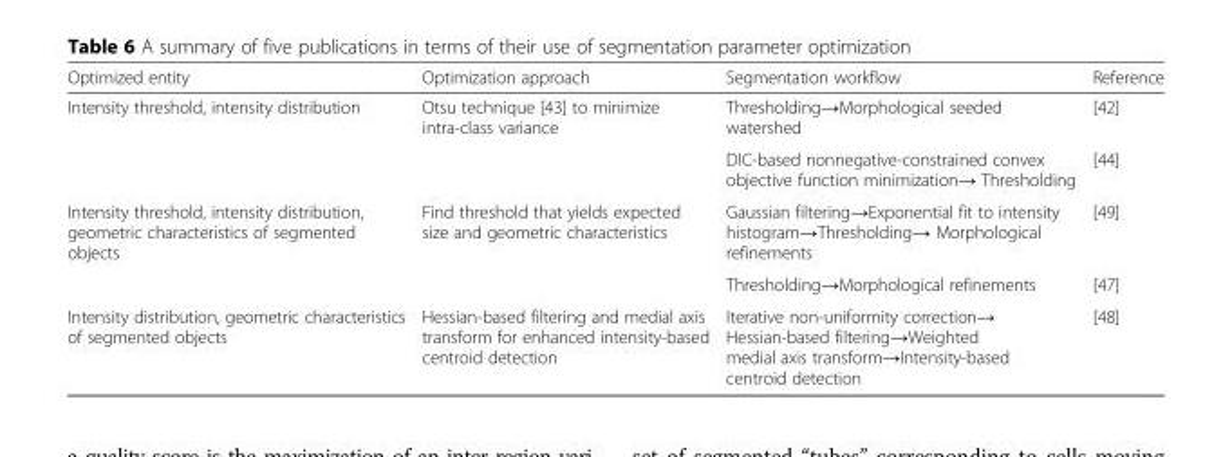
<table><thead><tr><td>Optimized entity</td><td>Optimization approach</td><td>Segmentation workflow</td><td>Reference</td></tr></thead><tbody><tr><td rowspan="2">Intensity threshold, intensity distribution</td><td rowspan="2">Otsu technique [43] to minimize intra-class variance</td><td>Thresholding→Morphological seeded watershed</td><td>[42]</td></tr><tr><td>DIC-based nonnegative-constrained convex objective function minimization→ Thresholding</td><td>[44]</td></tr><tr><td rowspan="2">Intensity threshold, intensity distribution, geometric characteristics of segmented objects</td><td rowspan="2">Find threshold that yields expected size and geometric characteristics</td><td>Gaussian filtering→Exponential fit to intensity histogram→Thresholding→ Morphological refinements</td><td>[49]</td></tr><tr><td>Thresholding→Morphological refinements</td><td>[47]</td></tr><tr><td>Intensity distribution, geometric characteristics of segmented objects</td><td>Hessian-based filtering and medial axis transform for enhanced intensity-based centroid detection</td><td>Iterative non-uniformity correction→ Hessian-based filtering→Weighted medial axis transform→Intensity-based centroid detection</td><td>[48]</td></tr></tbody></table>